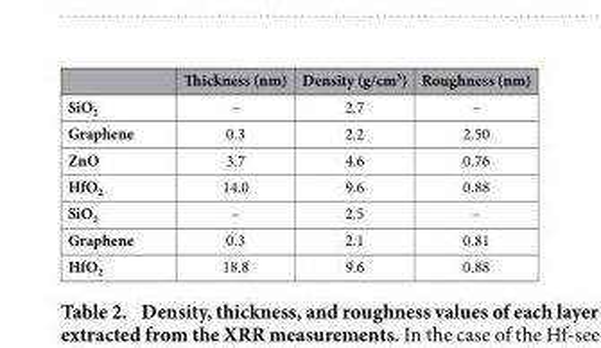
<table><thead><tr><td></td><td>Thickness (nm)</td><td>Density (g/cm<sup>3</sup>)</td><td>Roughness (nm)</td></tr></thead><tbody><tr><td>SiO<sub>2</sub></td><td>–</td><td>2.7</td><td>–</td></tr><tr><td>Graphene</td><td>0.3</td><td>2.2</td><td>2.50</td></tr><tr><td>ZnO</td><td>3.7</td><td>4.6</td><td>0.76</td></tr><tr><td>HfO<sub>2</sub></td><td>14.0</td><td>9.6</td><td>0.88</td></tr><tr><td>SiO<sub>2</sub></td><td>–</td><td>2.5</td><td>–</td></tr><tr><td>Graphene</td><td>0.3</td><td>2.1</td><td>0.81</td></tr><tr><td>HfO<sub>2</sub></td><td>18.8</td><td>9.6</td><td>0.88</td></tr></tbody></table>